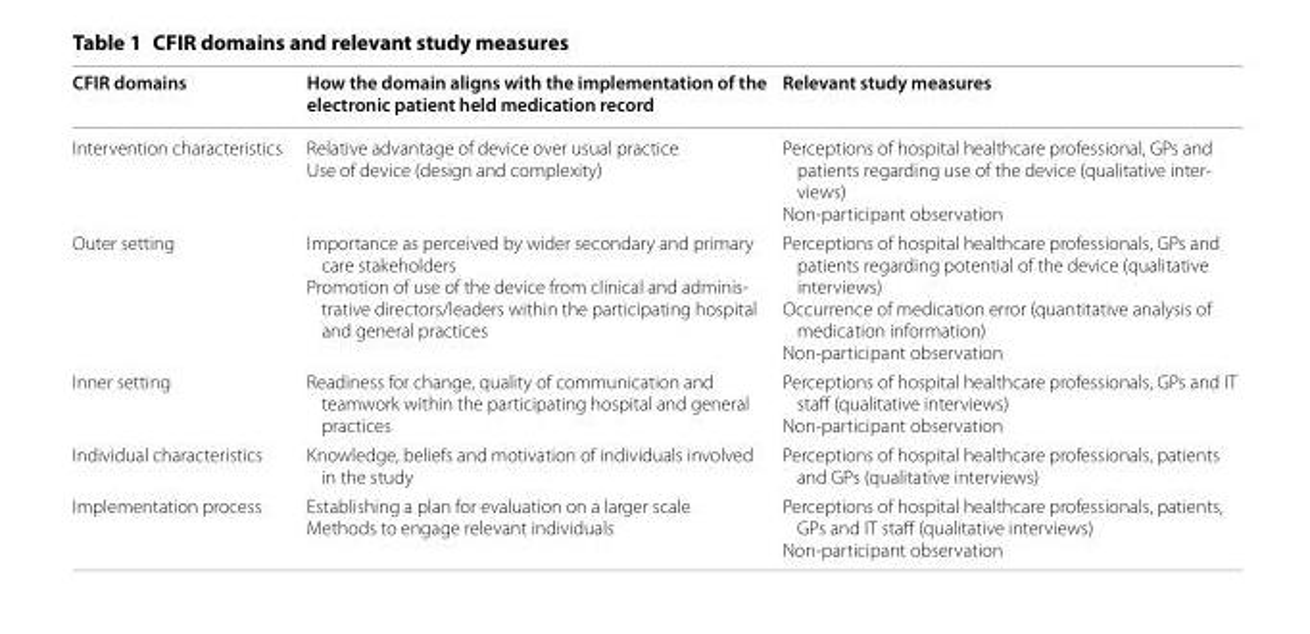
<table><thead><tr><td>CFIR domains</td><td>How the domain aligns with the implementation of the electronic patient held medication record</td><td>Relevant study measures</td></tr></thead><tbody><tr><td>Intervention characteristics</td><td>Relative advantage of device over usual practice Use of device (design and complexity)</td><td>Perceptions of hospital healthcare professional, GPs and patients regarding use of the device (qualitative inter- views) Non-participant observation</td></tr><tr><td>Outer setting</td><td>Importance as perceived by wider secondary and primary care stakeholders Promotion of use of the device from clinical and adminis- trative directors/leaders within the participating hospital and general practices</td><td>Perceptions of hospital healthcare professionals, GPs and patients regarding potential of the device (qualitative interviews) Occurrence of medication error (quantitative analysis of medication information) Non-participant observation</td></tr><tr><td>Inner setting</td><td>Readiness for change, quality of communication and teamwork within the participating hospital and general practices</td><td>Perceptions of hospital healthcare professionals, GPs and IT staff (qualitative interviews) Non-participant observation</td></tr><tr><td>Individual characteristics</td><td>Knowledge, beliefs and motivation of individuals involved in the study</td><td>Perceptions of hospital healthcare professionals, patients and GPs (qualitative interviews)</td></tr><tr><td>Implementation process</td><td>Establishing a plan for evaluation on a larger scale Methods to engage relevant individuals</td><td>Perceptions of hospital healthcare professionals, patients, GPs and IT staff (qualitative interviews) Non-participant observation</td></tr></tbody></table>